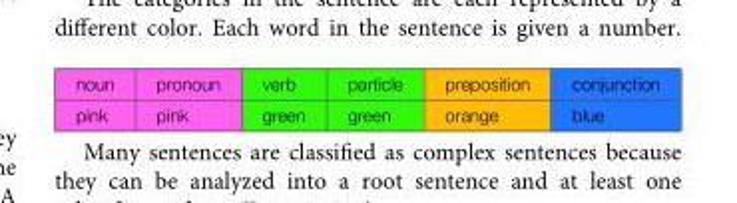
<table><tbody><tr><td>noun</td><td>pronoun</td><td>verb</td><td>particle</td><td>preposition</td><td>conjunction</td></tr><tr><td>pink</td><td>pink</td><td>green</td><td>green</td><td>orange</td><td>blue</td></tr></tbody></table>